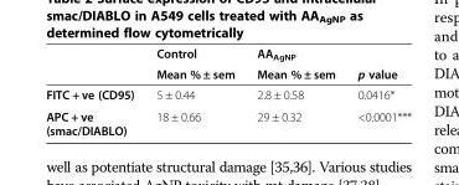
<table><thead><tr><td rowspan="2"></td><td rowspan="2">Control Mean % ± sem</td><td rowspan="2">AA<sub>AgNP</sub> Mean % ± sem</td><td rowspan="2">p value</td></tr><tr></tr></thead><tbody><tr><td>FITC + ve (CD95)</td><td>5 ± 0.44</td><td>2.8 ± 0.58</td><td>0.0416*</td></tr><tr><td>APC + ve (smac/DIABLO)</td><td>18 ± 0.66</td><td>29 ± 0.32</td><td>&lt;0.0001***</td></tr></tbody></table>